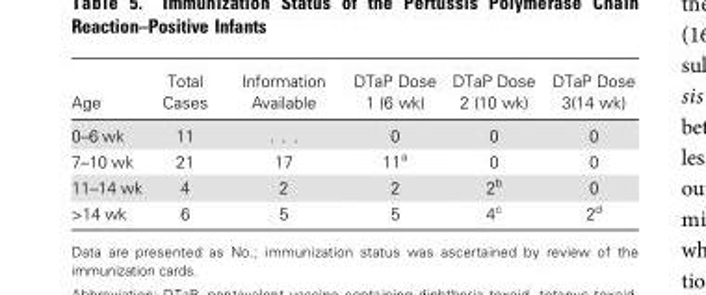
<table><thead><tr><td>Age</td><td>Total Cases</td><td>Information Available</td><td>DTaP Dose 1 (6 wk)</td><td>DTaP Dose 2 (10 wk)</td><td>DTaP Dose 3(14 wk)</td></tr></thead><tbody><tr><td>0–6 wk</td><td>11</td><td>. . .</td><td>0</td><td>0</td><td>0</td></tr><tr><td>7–10 wk</td><td>21</td><td>17</td><td>11<sup>a</sup></td><td>0</td><td>0</td></tr><tr><td>11–14 wk</td><td>4</td><td>2</td><td>2</td><td>2<sup>b</sup></td><td>0</td></tr><tr><td>&gt;14 wk</td><td>6</td><td>5</td><td>5</td><td>4<sup>c</sup></td><td>2<sup>d</sup></td></tr></tbody></table>